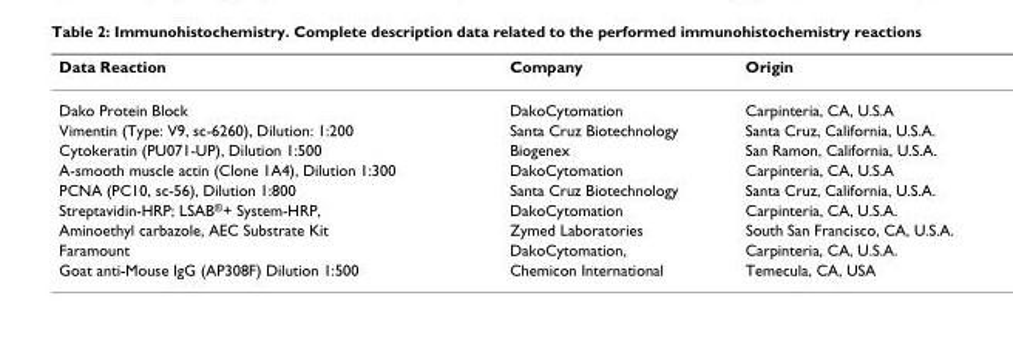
<table><thead><tr><td>Data Reaction</td><td>Company</td><td>Origin</td></tr></thead><tbody><tr><td>Dako Protein Block</td><td>DakoCytomation</td><td>Carpinteria, CA, U.S.A</td></tr><tr><td>Vimentin (Type: V9, sc-6260), Dilution: 1:200</td><td>Santa Cruz Biotechnology</td><td>Santa Cruz, California, U.S.A.</td></tr><tr><td>Cytokeratin (PU071-UP), Dilution 1:500</td><td>Biogenex</td><td>San Ramon, California, U.S.A.</td></tr><tr><td>A-smooth muscle actin (Clone 1A4), Dilution 1:300</td><td>DakoCytomation</td><td>Carpinteria, CA, U.S.A</td></tr><tr><td>PCNA (PC10, sc-56), Dilution 1:800</td><td>Santa Cruz Biotechnology</td><td>Santa Cruz, California, U.S.A.</td></tr><tr><td>Streptavidin-HRP; LSAB<sup>®</sup>+ System-HRP,</td><td>DakoCytomation</td><td>Carpinteria, CA, U.S.A.</td></tr><tr><td>Aminoethyl carbazole, AEC Substrate Kit</td><td>Zymed Laboratories</td><td>South San Francisco, CA, U.S.A.</td></tr><tr><td>Faramount</td><td>DakoCytomation,</td><td>Carpinteria, CA, U.S.A.</td></tr><tr><td>Goat anti-Mouse IgG (AP308F) Dilution 1:500</td><td>Chemicon International</td><td>Temecula, CA, USA</td></tr></tbody></table>